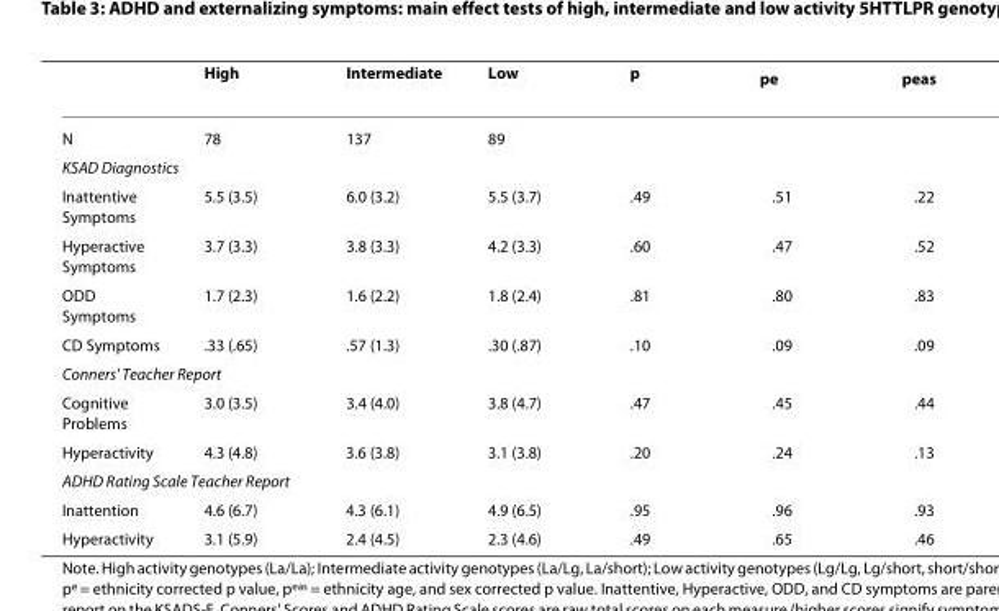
<table><thead><tr><td></td><td>High</td><td>Intermediate</td><td>Low</td><td>p</td><td>p<sup>e</sup></td><td>p<sup>eas</sup></td></tr></thead><tbody><tr><td>N</td><td>78</td><td>137</td><td>89</td><td></td><td></td><td></td></tr><tr><td colspan="7">KSAD Diagnostics</td></tr><tr><td>Inattentive Symptoms</td><td>5.5 (3.5)</td><td>6.0 (3.2)</td><td>5.5 (3.7)</td><td>.49</td><td>.51</td><td>.22</td></tr><tr><td>Hyperactive Symptoms</td><td>3.7 (3.3)</td><td>3.8 (3.3)</td><td>4.2 (3.3)</td><td>.60</td><td>.47</td><td>.52</td></tr><tr><td>ODD Symptoms</td><td>1.7 (2.3)</td><td>1.6 (2.2)</td><td>1.8 (2.4)</td><td>.81</td><td>.80</td><td>.83</td></tr><tr><td>CD Symptoms</td><td>.33 (.65)</td><td>.57 (1.3)</td><td>.30 (.87)</td><td>.10</td><td>.09</td><td>.09</td></tr><tr><td colspan="7">Conners&#x27; Teacher Report</td></tr><tr><td>Cognitive Problems</td><td>3.0 (3.5)</td><td>3.4 (4.0)</td><td>3.8 (4.7)</td><td>.47</td><td>.45</td><td>.44</td></tr><tr><td>Hyperactivity</td><td>4.3 (4.8)</td><td>3.6 (3.8)</td><td>3.1 (3.8)</td><td>.20</td><td>.24</td><td>.13</td></tr><tr><td colspan="7">ADHD Rating Scale Teacher Report</td></tr><tr><td>Inattention</td><td>4.6 (6.7)</td><td>4.3 (6.1)</td><td>4.9 (6.5)</td><td>.95</td><td>.96</td><td>.93</td></tr><tr><td>Hyperactivity</td><td>3.1 (5.9)</td><td>2.4 (4.5)</td><td>2.3 (4.6)</td><td>.49</td><td>.65</td><td>.46</td></tr></tbody></table>